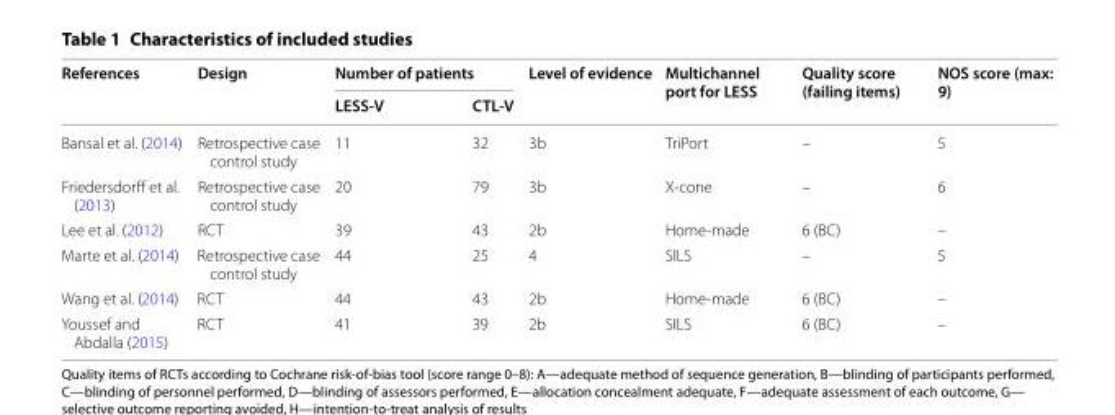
<table><thead><tr><td rowspan="2">References</td><td rowspan="2">Design</td><td colspan="2">Number of patients</td><td rowspan="2">Level of evidence</td><td rowspan="2">Multichannel port for LESS</td><td rowspan="2">Quality score (failing items)</td><td rowspan="2">NOS score (max: 9)</td></tr><tr><td>LESS-V</td><td>CTL-V</td></tr></thead><tbody><tr><td>Bansal et al. (2014)</td><td>Retrospective case control study</td><td>11</td><td>32</td><td>3b</td><td>TriPort</td><td>–</td><td>5</td></tr><tr><td>Friedersdorff et al. (2013)</td><td>Retrospective case control study</td><td>20</td><td>79</td><td>3b</td><td>X-cone</td><td>–</td><td>6</td></tr><tr><td>Lee et al. (2012)</td><td>RCT</td><td>39</td><td>43</td><td>2b</td><td>Home-made</td><td>6 (BC)</td><td>–</td></tr><tr><td>Marte et al. (2014)</td><td>Retrospective case control study</td><td>44</td><td>25</td><td>4</td><td>SILS</td><td>–</td><td>5</td></tr><tr><td>Wang et al. (2014)</td><td>RCT</td><td>44</td><td>43</td><td>2b</td><td>Home-made</td><td>6 (BC)</td><td>–</td></tr><tr><td>Youssef and Abdalla (2015)</td><td>RCT</td><td>41</td><td>39</td><td>2b</td><td>SILS</td><td>6 (BC)</td><td>–</td></tr></tbody></table>